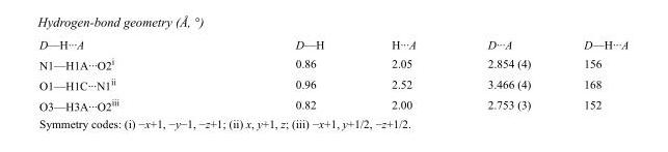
<table><tbody><tr><td>D—H···A</td><td>D—H</td><td>H···A</td><td>D···A</td><td>D—H···A</td></tr><tr><td>N1—H1A···O2<sup>i</sup></td><td>0.86</td><td>2.05</td><td>2.854 (4)</td><td>156</td></tr><tr><td>O1—H1C···N1<sup>ii</sup></td><td>0.96</td><td>2.52</td><td>3.466 (4)</td><td>168</td></tr><tr><td>O3—H3A···O2<sup>iii</sup></td><td>0.82</td><td>2.00</td><td>2.753 (3)</td><td>152</td></tr></tbody></table>